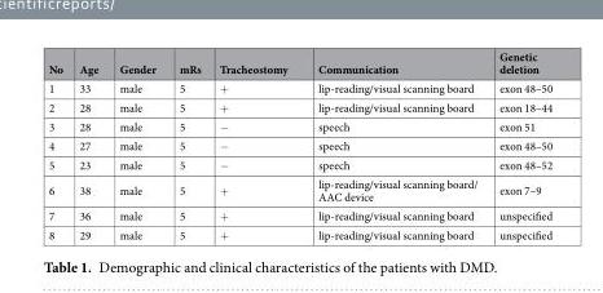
<table><thead><tr><td>No</td><td>Age</td><td>Gender</td><td>mRs</td><td>Tracheostomy</td><td>Communication</td><td>Genetic deletion</td></tr></thead><tbody><tr><td>1</td><td>33</td><td>male</td><td>5</td><td>+</td><td>lip-reading/visual scanning board</td><td>exon 48–50</td></tr><tr><td>2</td><td>28</td><td>male</td><td>5</td><td>+</td><td>lip-reading/visual scanning board</td><td>exon 18–44</td></tr><tr><td>3</td><td>28</td><td>male</td><td>5</td><td>−</td><td>speech</td><td>exon 51</td></tr><tr><td>4</td><td>27</td><td>male</td><td>5</td><td>−</td><td>speech</td><td>exon 48–50</td></tr><tr><td>5</td><td>23</td><td>male</td><td>5</td><td>−</td><td>speech</td><td>exon 48–52</td></tr><tr><td>6</td><td>38</td><td>male</td><td>5</td><td>+</td><td>lip-reading/visual scanning board/ AAC device</td><td>exon 7–9</td></tr><tr><td>7</td><td>36</td><td>male</td><td>5</td><td>+</td><td>lip-reading/visual scanning board</td><td>unspecified</td></tr><tr><td>8</td><td>29</td><td>male</td><td>5</td><td>+</td><td>lip-reading/visual scanning board</td><td>unspecified</td></tr></tbody></table>